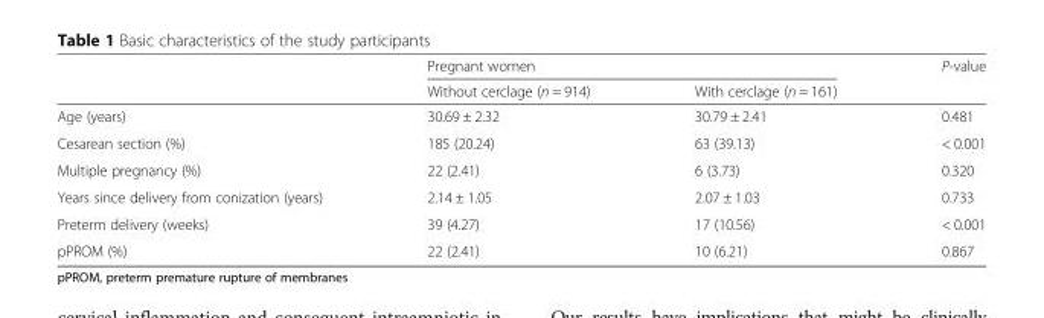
<table><thead><tr><td rowspan="2"></td><td colspan="2">Pregnant women</td><td rowspan="2">P-value</td></tr><tr><td>Without cerclage (n = 914)</td><td>With cerclage (n = 161)</td></tr></thead><tbody><tr><td>Age (years)</td><td>30.69 ± 2.32</td><td>30.79 ± 2.41</td><td>0.481</td></tr><tr><td>Cesarean section (%)</td><td>185 (20.24)</td><td>63 (39.13)</td><td>&lt; 0.001</td></tr><tr><td>Multiple pregnancy (%)</td><td>22 (2.41)</td><td>6 (3.73)</td><td>0.320</td></tr><tr><td>Years since delivery from conization (years)</td><td>2.14 ± 1.05</td><td>2.07 ± 1.03</td><td>0.733</td></tr><tr><td>Preterm delivery (weeks)</td><td>39 (4.27)</td><td>17 (10.56)</td><td>&lt; 0.001</td></tr><tr><td>pPROM (%)</td><td>22 (2.41)</td><td>10 (6.21)</td><td>0.867</td></tr></tbody></table>